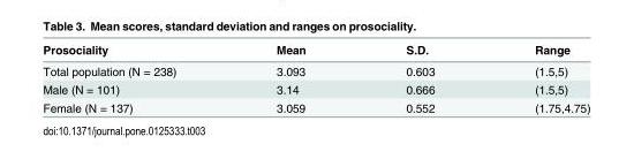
<table><thead><tr><td>Prosociality</td><td>Mean</td><td>S.D.</td><td>Range</td></tr></thead><tbody><tr><td>Total population (N = 238)</td><td>3.093</td><td>0.603</td><td>(1.5,5)</td></tr><tr><td>Male (N = 101)</td><td>3.14</td><td>0.666</td><td>(1.5,5)</td></tr><tr><td>Female (N = 137)</td><td>3.059</td><td>0.552</td><td>(1.75,4.75)</td></tr></tbody></table>